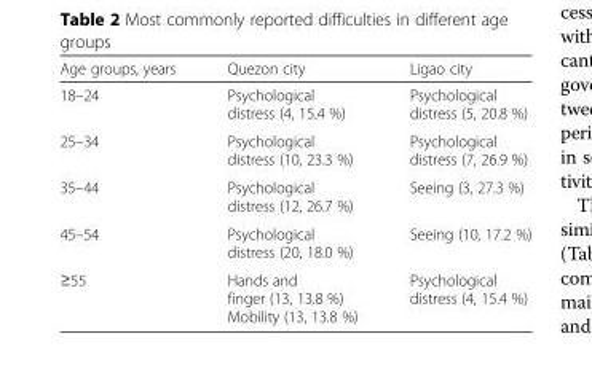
<table><thead><tr><td>Age groups, years</td><td>Quezon city</td><td>Ligao city</td></tr></thead><tbody><tr><td>18–24</td><td>Psychological distress (4, 15.4 %)</td><td>Psychological distress (5, 20.8 %)</td></tr><tr><td>25–34</td><td>Psychological distress (10, 23.3 %)</td><td>Psychological distress (7, 26.9 %)</td></tr><tr><td>35–44</td><td>Psychological distress (12, 26.7 %)</td><td>Seeing (3, 27.3 %)</td></tr><tr><td>45–54</td><td>Psychological distress (20, 18.0 %)</td><td>Seeing (10, 17.2 %)</td></tr><tr><td>≥55</td><td>Hands and finger (13, 13.8 %) Mobility (13, 13.8 %)</td><td>Psychological distress (4, 15.4 %)</td></tr></tbody></table>